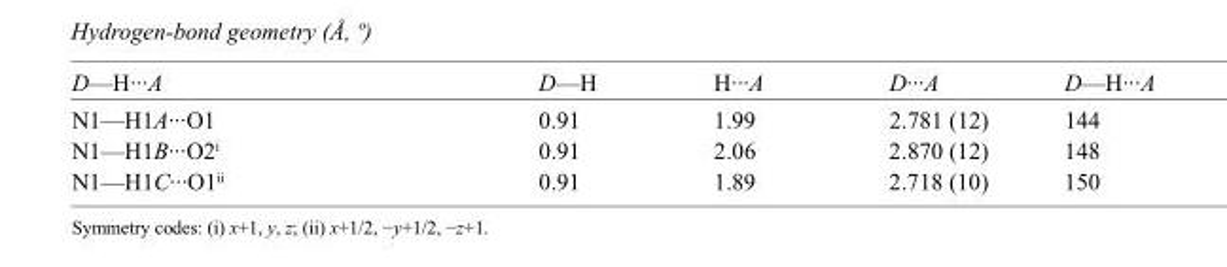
<table><tbody><tr><td>D—H···A</td><td>D—H</td><td>H···A</td><td>D···A</td><td>D—H···A</td></tr><tr><td>N1—H1A···O1</td><td>0.91</td><td>1.99</td><td>2.781 (12)</td><td>144</td></tr><tr><td>N1—H1B···O2<sup>i</sup></td><td>0.91</td><td>2.06</td><td>2.870 (12)</td><td>148</td></tr><tr><td>N1—H1C···O1<sup>ii</sup></td><td>0.91</td><td>1.89</td><td>2.718 (10)</td><td>150</td></tr></tbody></table>